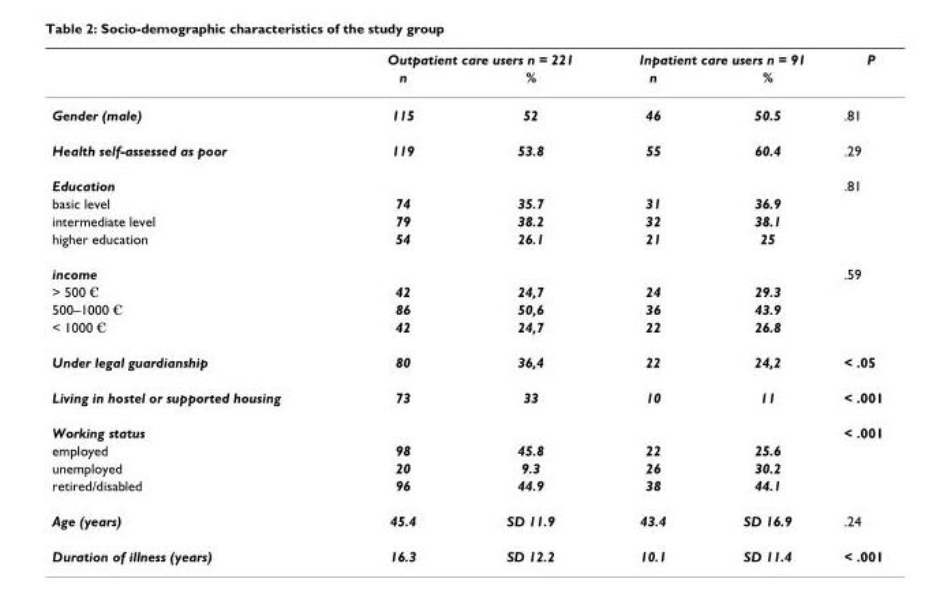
<table><thead><tr><td rowspan="2"></td><td colspan="2">Outpatient care users n = 221</td><td colspan="2">Inpatient care users n = 91</td><td rowspan="2">P</td></tr><tr><td>n</td><td>%</td><td>n</td><td>%</td></tr></thead><tbody><tr><td>Gender (male)</td><td>115</td><td>52</td><td>46</td><td>50.5</td><td>.81</td></tr><tr><td>Health self-assessed as poor</td><td>119</td><td>53.8</td><td>55</td><td>60.4</td><td>.29</td></tr><tr><td>Education</td><td></td><td></td><td></td><td></td><td>.81</td></tr><tr><td>basic level</td><td>74</td><td>35.7</td><td>31</td><td>36.9</td><td></td></tr><tr><td>intermediate level</td><td>79</td><td>38.2</td><td>32</td><td>38.1</td><td></td></tr><tr><td>higher education</td><td>54</td><td>26.1</td><td>21</td><td>25</td><td></td></tr><tr><td>income</td><td></td><td></td><td></td><td></td><td>.59</td></tr><tr><td>&gt; 500 €</td><td>42</td><td>24,7</td><td>24</td><td>29.3</td><td></td></tr><tr><td>500–1000 €</td><td>86</td><td>50,6</td><td>36</td><td>43.9</td><td></td></tr><tr><td>&lt; 1000 €</td><td>42</td><td>24,7</td><td>22</td><td>26.8</td><td></td></tr><tr><td>Under legal guardianship</td><td>80</td><td>36,4</td><td>22</td><td>24,2</td><td>&lt; .05</td></tr><tr><td>Living in hostel or supported housing</td><td>73</td><td>33</td><td>10</td><td>11</td><td>&lt; .001</td></tr><tr><td>Working status</td><td></td><td></td><td></td><td></td><td>&lt; .001</td></tr><tr><td>employed</td><td>98</td><td>45.8</td><td>22</td><td>25.6</td><td></td></tr><tr><td>unemployed</td><td>20</td><td>9.3</td><td>26</td><td>30.2</td><td></td></tr><tr><td>retired/disabled</td><td>96</td><td>44.9</td><td>38</td><td>44.1</td><td></td></tr><tr><td>Age (years)</td><td>45.4</td><td>SD 11.9</td><td>43.4</td><td>SD 16.9</td><td>.24</td></tr><tr><td>Duration of illness (years)</td><td>16.3</td><td>SD 12.2</td><td>10.1</td><td>SD 11.4</td><td>&lt; .001</td></tr></tbody></table>